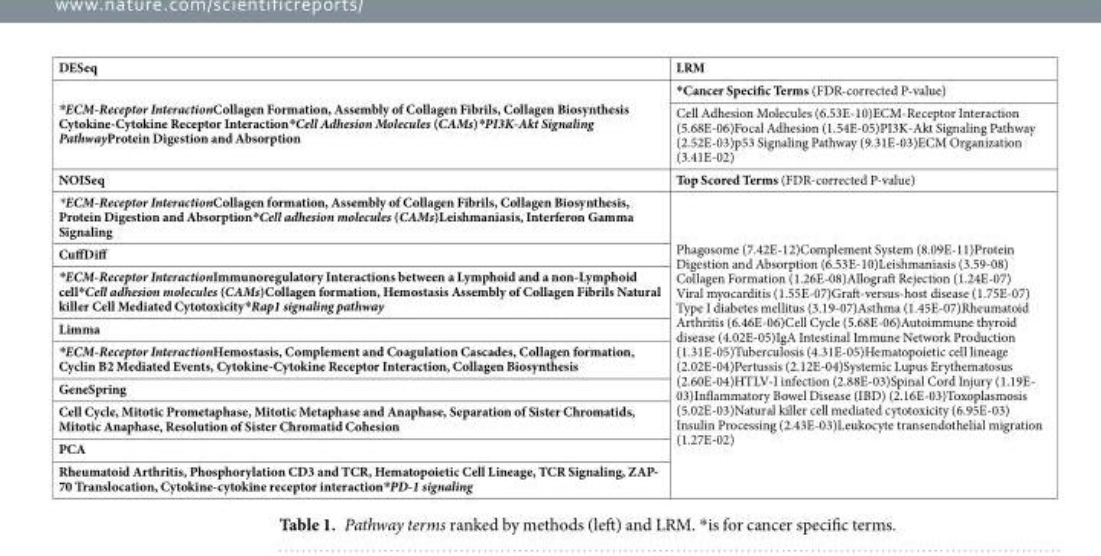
<table><tbody><tr><td>DESeq</td><td>LRM</td></tr><tr><td rowspan="2">*ECM-Receptor InteractionCollagen Formation, Assembly of Collagen Fibrils, Collagen Biosynthesis Cytokine-Cytokine Receptor Interaction*Cell Adhesion Molecules (CAMs)*PI3K-Akt Signaling PathwayProtein Digestion and Absorption</td><td>*Cancer Specific Terms (FDR-corrected P-value)</td></tr><tr><td>Cell Adhesion Molecules (6.53E-10)ECM-Receptor Interaction (5.68E-06)Focal Adhesion (1.54E-05)PI3K-Akt Signaling Pathway (2.52E-03)p53 Signaling Pathway (9.31E-03)ECM Organization (3.41E-02)</td></tr><tr><td>NOISeq</td><td>Top Scored Terms (FDR-corrected P-value)</td></tr><tr><td>*ECM-Receptor InteractionCollagen formation, Assembly of Collagen Fibrils, Collagen Biosynthesis, Protein Digestion and Absorption*Cell adhesion molecules (CAMs)Leishmaniasis, Interferon Gamma Signaling</td><td rowspan="9">Phagosome (7.42E-12)Complement System (8.09E-11)Protein Digestion and Absorption (6.53E-10)Leishmaniasis (3.59-08) Collagen Formation (1.26E-08)Allograft Rejection (1.24E-07) Viral myocarditis (1.55E-07)Graft-versus-host disease (1.75E-07) Type I diabetes mellitus (3.19-07)Asthma (1.45E-07)Rheumatoid Arthritis (6.46E-06)Cell Cycle (5.68E-06)Autoimmune thyroid disease (4.02E-05)IgA Intestinal Immune Network Production (1.31E-05)Tuberculosis (4.31E-05)Hematopoietic cell lineage (2.02E-04)Pertussis (2.12E-04)Systemic Lupus Erythematosus (2.60E-04)HTLV-I infection (2.88E-03)Spinal Cord Injury (1.19E- 03)Inflammatory Bowel Disease (IBD) (2.16E-03)Toxoplasmosis (5.02E-03)Natural killer cell mediated cytotoxicity (6.95E-03) Insulin Processing (2.43E-03)Leukocyte transendothelial migration (1.27E-02)</td></tr><tr><td>CuffDiff</td></tr><tr><td>*ECM-Receptor InteractionImmunoregulatory Interactions between a Lymphoid and a non-Lymphoid cell*Cell adhesion molecules (CAMs)Collagen formation, Hemostasis Assembly of Collagen Fibrils Natural killer Cell Mediated Cytotoxicity*Rap1 signaling pathway</td></tr><tr><td>Limma</td></tr><tr><td>*ECM-Receptor InteractionHemostasis, Complement and Coagulation Cascades, Collagen formation, Cyclin B2 Mediated Events, Cytokine-Cytokine Receptor Interaction, Collagen Biosynthesis</td></tr><tr><td>GeneSpring</td></tr><tr><td>Cell Cycle, Mitotic Prometaphase, Mitotic Metaphase and Anaphase, Separation of Sister Chromatids, Mitotic Anaphase, Resolution of Sister Chromatid Cohesion</td></tr><tr><td>PCA</td></tr><tr><td>Rheumatoid Arthritis, Phosphorylation CD3 and TCR, Hematopoietic Cell Lineage, TCR Signaling, ZAP- 70 Translocation, Cytokine-cytokine receptor interaction*PD-1 signaling</td></tr></tbody></table>